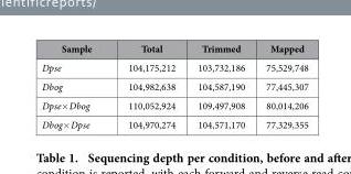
<table><thead><tr><td>Sample</td><td>Total</td><td>Trimmed</td><td>Mapped</td></tr></thead><tbody><tr><td>Dpse</td><td>104,175,212</td><td>103,732,186</td><td>75,529,748</td></tr><tr><td>Dbog</td><td>104,982,638</td><td>104,587,190</td><td>77,445,307</td></tr><tr><td>Dpse× Dbog</td><td>110,052,924</td><td>109,497,908</td><td>80,014,206</td></tr><tr><td>Dbog× Dpse</td><td>104,970,274</td><td>104,571,170</td><td>77,329,355</td></tr></tbody></table>